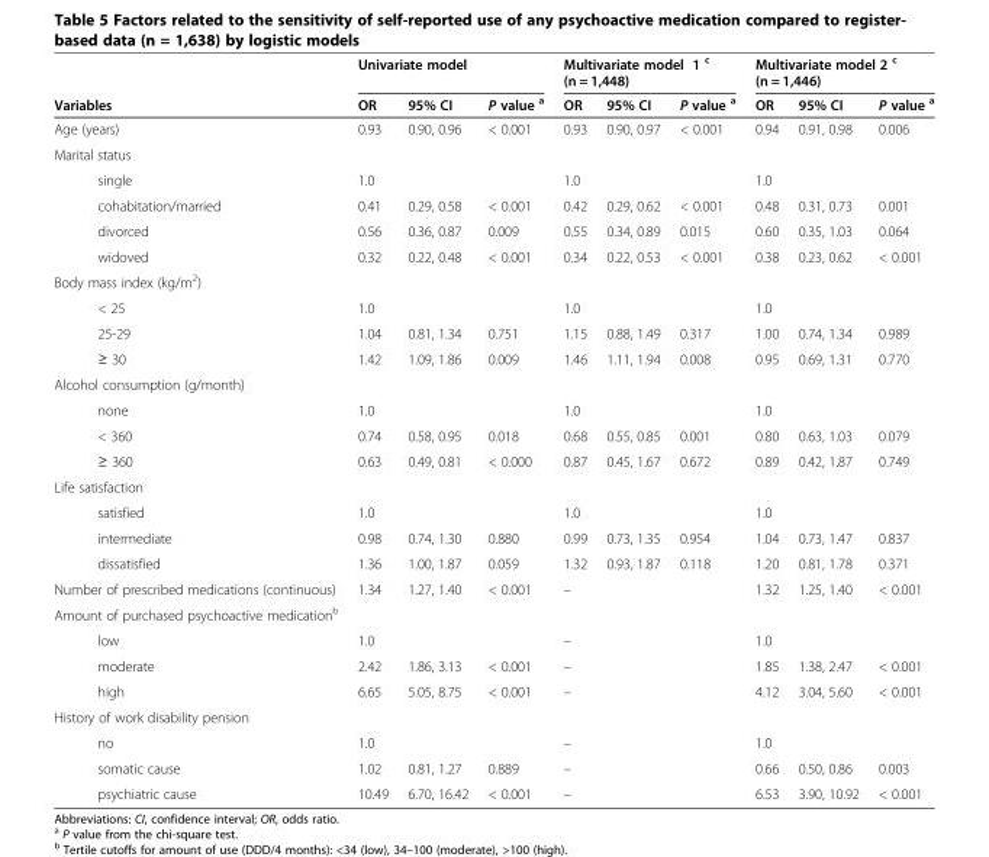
<table><thead><tr><td rowspan="2">Variables</td><td colspan="3">Univariate model</td><td colspan="3">Multivariate model 1 <sup>c</sup> (n = 1,448)</td><td colspan="3">Multivariate model 2 <sup>c</sup> (n = 1,446)</td></tr><tr><td>OR</td><td>95% CI</td><td>P value <sup>a</sup></td><td>OR</td><td>95% CI</td><td>P value <sup>a</sup></td><td>OR</td><td>95% CI</td><td>P value <sup>a</sup></td></tr></thead><tbody><tr><td>Age (years)</td><td>0.93</td><td>0.90, 0.96</td><td>&lt; 0.001</td><td>0.93</td><td>0.90, 0.97</td><td>&lt; 0.001</td><td>0.94</td><td>0.91, 0.98</td><td>0.006</td></tr><tr><td colspan="10">Marital status</td></tr><tr><td>single</td><td>1.0</td><td></td><td></td><td>1.0</td><td></td><td></td><td>1.0</td><td></td><td></td></tr><tr><td>cohabitation/married</td><td>0.41</td><td>0.29, 0.58</td><td>&lt; 0.001</td><td>0.42</td><td>0.29, 0.62</td><td>&lt; 0.001</td><td>0.48</td><td>0.31, 0.73</td><td>0.001</td></tr><tr><td>divorced</td><td>0.56</td><td>0.36, 0.87</td><td>0.009</td><td>0.55</td><td>0.34, 0.89</td><td>0.015</td><td>0.60</td><td>0.35, 1.03</td><td>0.064</td></tr><tr><td>widoved</td><td>0.32</td><td>0.22, 0.48</td><td>&lt; 0.001</td><td>0.34</td><td>0.22, 0.53</td><td>&lt; 0.001</td><td>0.38</td><td>0.23, 0.62</td><td>&lt; 0.001</td></tr><tr><td colspan="10">Body mass index (kg/m<sup>2</sup>)</td></tr><tr><td>&lt; 25</td><td>1.0</td><td></td><td></td><td>1.0</td><td></td><td></td><td>1.0</td><td></td><td></td></tr><tr><td>25-29</td><td>1.04</td><td>0.81, 1.34</td><td>0.751</td><td>1.15</td><td>0.88, 1.49</td><td>0.317</td><td>1.00</td><td>0.74, 1.34</td><td>0.989</td></tr><tr><td>≥ 30</td><td>1.42</td><td>1.09, 1.86</td><td>0.009</td><td>1.46</td><td>1.11, 1.94</td><td>0.008</td><td>0.95</td><td>0.69, 1.31</td><td>0.770</td></tr><tr><td colspan="10">Alcohol consumption (g/month)</td></tr><tr><td>none</td><td>1.0</td><td></td><td></td><td>1.0</td><td></td><td></td><td>1.0</td><td></td><td></td></tr><tr><td>&lt; 360</td><td>0.74</td><td>0.58, 0.95</td><td>0.018</td><td>0.68</td><td>0.55, 0.85</td><td>0.001</td><td>0.80</td><td>0.63, 1.03</td><td>0.079</td></tr><tr><td>≥ 360</td><td>0.63</td><td>0.49, 0.81</td><td>&lt; 0.000</td><td>0.87</td><td>0.45, 1.67</td><td>0.672</td><td>0.89</td><td>0.42, 1.87</td><td>0.749</td></tr><tr><td colspan="10">Life satisfaction</td></tr><tr><td>satisfied</td><td>1.0</td><td></td><td></td><td>1.0</td><td></td><td></td><td>1.0</td><td></td><td></td></tr><tr><td>intermediate</td><td>0.98</td><td>0.74, 1.30</td><td>0.880</td><td>0.99</td><td>0.73, 1.35</td><td>0.954</td><td>1.04</td><td>0.73, 1.47</td><td>0.837</td></tr><tr><td>dissatisfied</td><td>1.36</td><td>1.00, 1.87</td><td>0.059</td><td>1.32</td><td>0.93, 1.87</td><td>0.118</td><td>1.20</td><td>0.81, 1.78</td><td>0.371</td></tr><tr><td>Number of prescribed medications (continuous)</td><td>1.34</td><td>1.27, 1.40</td><td>&lt; 0.001</td><td>–</td><td></td><td></td><td>1.32</td><td>1.25, 1.40</td><td>&lt; 0.001</td></tr><tr><td colspan="10">Amount of purchased psychoactive medication<sup>b</sup></td></tr><tr><td>low</td><td>1.0</td><td></td><td></td><td>–</td><td></td><td></td><td>1.0</td><td></td><td></td></tr><tr><td>moderate</td><td>2.42</td><td>1.86, 3.13</td><td>&lt; 0.001</td><td>–</td><td></td><td></td><td>1.85</td><td>1.38, 2.47</td><td>&lt; 0.001</td></tr><tr><td>high</td><td>6.65</td><td>5.05, 8.75</td><td>&lt; 0.001</td><td>–</td><td></td><td></td><td>4.12</td><td>3.04, 5.60</td><td>&lt; 0.001</td></tr><tr><td colspan="10">History of work disability pension</td></tr><tr><td>no</td><td>1.0</td><td></td><td></td><td>–</td><td></td><td></td><td>1.0</td><td></td><td></td></tr><tr><td>somatic cause</td><td>1.02</td><td>0.81, 1.27</td><td>0.889</td><td>–</td><td></td><td></td><td>0.66</td><td>0.50, 0.86</td><td>0.003</td></tr><tr><td>psychiatric cause</td><td>10.49</td><td>6.70, 16.42</td><td>&lt; 0.001</td><td>–</td><td></td><td></td><td>6.53</td><td>3.90, 10.92</td><td>&lt; 0.001</td></tr></tbody></table>